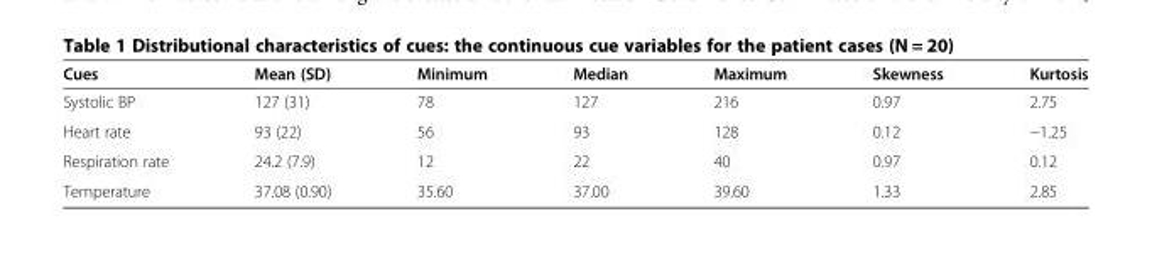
<table><thead><tr><td>Cues</td><td>Mean (SD)</td><td>Minimum</td><td>Median</td><td>Maximum</td><td>Skewness</td><td>Kurtosis</td></tr></thead><tbody><tr><td>Systolic BP</td><td>127 (31)</td><td>78</td><td>127</td><td>216</td><td>0.97</td><td>2.75</td></tr><tr><td>Heart rate</td><td>93 (22)</td><td>56</td><td>93</td><td>128</td><td>0.12</td><td>−1.25</td></tr><tr><td>Respiration rate</td><td>24.2 (7.9)</td><td>12</td><td>22</td><td>40</td><td>0.97</td><td>0.12</td></tr><tr><td>Temperature</td><td>37.08 (0.90)</td><td>35.60</td><td>37.00</td><td>39.60</td><td>1.33</td><td>2.85</td></tr></tbody></table>